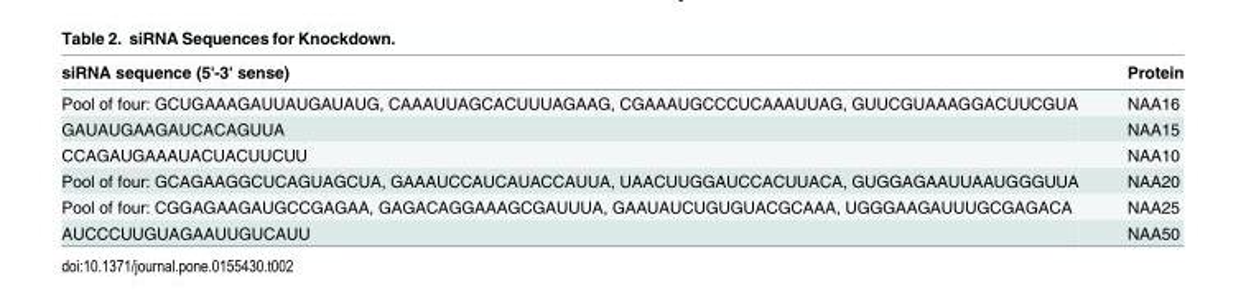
<table><thead><tr><td>siRNA sequence (5&#x27;-3&#x27; sense)</td><td>Protein</td></tr></thead><tbody><tr><td>Pool of four: GCUGAAAGAUUAUGAUAUG, CAAAUUAGCACUUUAGAAG, CGAAAUGCCCUCAAAUUAG, GUUCGUAAAGGACUUCGUA</td><td>NAA16</td></tr><tr><td>GAUAUGAAGAUCACAGUUA</td><td>NAA15</td></tr><tr><td>CCAGAUGAAAUACUACUUCUU</td><td>NAA10</td></tr><tr><td>Pool of four: GCAGAAGGCUCAGUAGCUA, GAAAUCCAUCAUACCAUUA, UAACUUGGAUCCACUUACA, GUGGAGAAUUAAUGGGUUA</td><td>NAA20</td></tr><tr><td>Pool of four: CGGAGAAGAUGCCGAGAA, GAGACAGGAAAGCGAUUUA, GAAUAUCUGUGUACGCAAA, UGGGAAGAUUUGCGAGACA</td><td>NAA25</td></tr><tr><td>AUCCCUUGUAGAAUUGUCAUU</td><td>NAA50</td></tr></tbody></table>